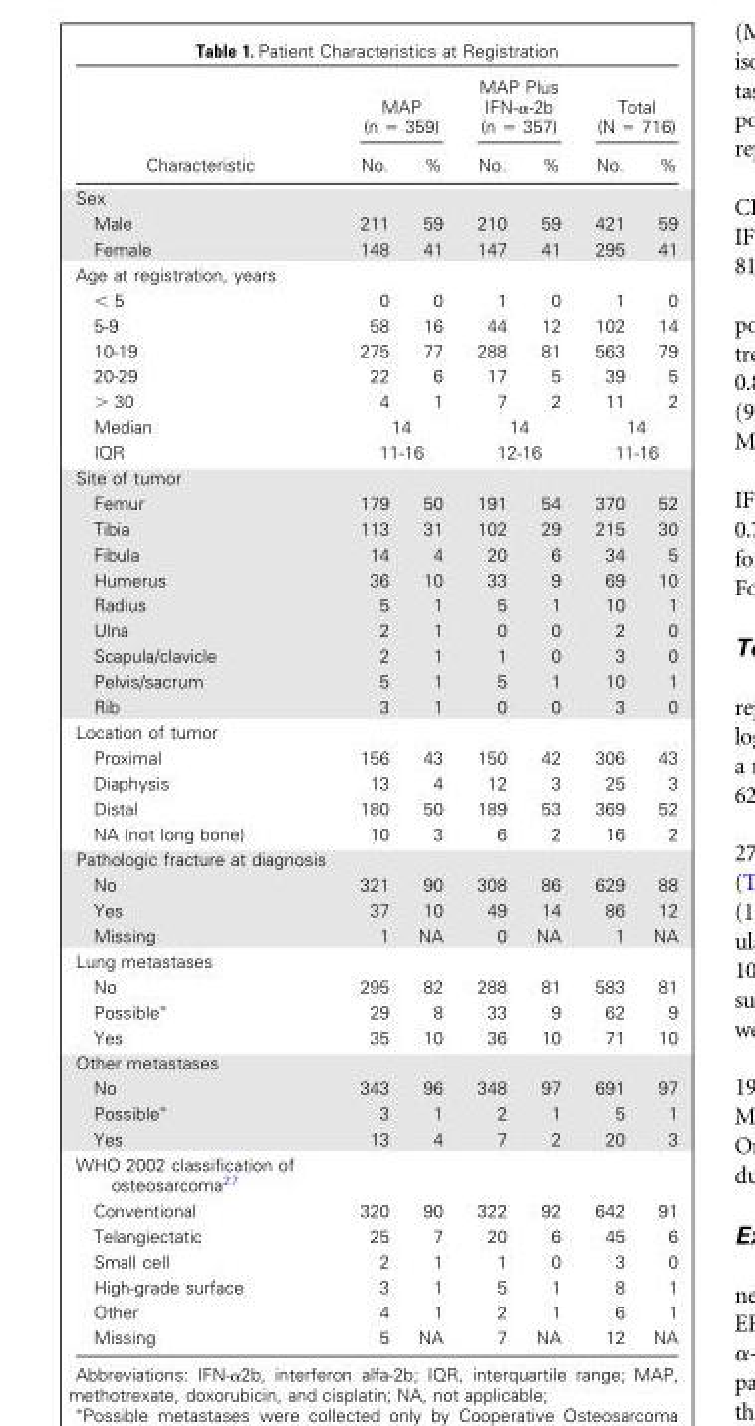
<table><thead><tr><td rowspan="2">Characteristic</td><td colspan="2">MAP (n = 359)</td><td colspan="2">MAP Plus IFN-α-2b (n = 357)</td><td colspan="2">Total (N = 716)</td></tr><tr><td>No.</td><td>%</td><td>No.</td><td>%</td><td>No.</td><td>%</td></tr></thead><tbody><tr><td colspan="7">Sex</td></tr><tr><td>Male</td><td>211</td><td>59</td><td>210</td><td>59</td><td>421</td><td>59</td></tr><tr><td>Female</td><td>148</td><td>41</td><td>147</td><td>41</td><td>295</td><td>41</td></tr><tr><td colspan="7">Age at registration, years</td></tr><tr><td>&lt; 5</td><td>0</td><td>0</td><td>1</td><td>0</td><td>1</td><td>0</td></tr><tr><td>5-9</td><td>58</td><td>16</td><td>44</td><td>12</td><td>102</td><td>14</td></tr><tr><td>10-19</td><td>275</td><td>77</td><td>288</td><td>81</td><td>563</td><td>79</td></tr><tr><td>20-29</td><td>22</td><td>6</td><td>17</td><td>5</td><td>39</td><td>5</td></tr><tr><td>&gt; 30</td><td>4</td><td>1</td><td>7</td><td>2</td><td>11</td><td>2</td></tr><tr><td>Median</td><td colspan="2">14</td><td colspan="2">14</td><td colspan="2">14</td></tr><tr><td>IQR</td><td colspan="2">11-16</td><td colspan="2">12-16</td><td colspan="2">11-16</td></tr><tr><td colspan="7">Site of tumor</td></tr><tr><td>Femur</td><td>179</td><td>50</td><td>191</td><td>54</td><td>370</td><td>52</td></tr><tr><td>Tibia</td><td>113</td><td>31</td><td>102</td><td>29</td><td>215</td><td>30</td></tr><tr><td>Fibula</td><td>14</td><td>4</td><td>20</td><td>6</td><td>34</td><td>5</td></tr><tr><td>Humerus</td><td>36</td><td>10</td><td>33</td><td>9</td><td>69</td><td>10</td></tr><tr><td>Radius</td><td>5</td><td>1</td><td>5</td><td>1</td><td>10</td><td>1</td></tr><tr><td>Ulna</td><td>2</td><td>1</td><td>0</td><td>0</td><td>2</td><td>0</td></tr><tr><td>Scapula/clavicle</td><td>2</td><td>1</td><td>1</td><td>0</td><td>3</td><td>0</td></tr><tr><td>Pelvis/sacrum</td><td>5</td><td>1</td><td>5</td><td>1</td><td>10</td><td>1</td></tr><tr><td>Rib</td><td>3</td><td>1</td><td>0</td><td>0</td><td>3</td><td>0</td></tr><tr><td colspan="7">Location of tumor</td></tr><tr><td>Proximal</td><td>156</td><td>43</td><td>150</td><td>42</td><td>306</td><td>43</td></tr><tr><td>Diaphysis</td><td>13</td><td>4</td><td>12</td><td>3</td><td>25</td><td>3</td></tr><tr><td>Distal</td><td>180</td><td>50</td><td>189</td><td>53</td><td>369</td><td>52</td></tr><tr><td>NA (not long bone)</td><td>10</td><td>3</td><td>6</td><td>2</td><td>16</td><td>2</td></tr><tr><td colspan="7">Pathologic fracture at diagnosis</td></tr><tr><td>No</td><td>321</td><td>90</td><td>308</td><td>86</td><td>629</td><td>88</td></tr><tr><td>Yes</td><td>37</td><td>10</td><td>49</td><td>14</td><td>86</td><td>12</td></tr><tr><td>Missing</td><td>1</td><td>NA</td><td>0</td><td>NA</td><td>1</td><td>NA</td></tr><tr><td colspan="7">Lung metastases</td></tr><tr><td>No</td><td>295</td><td>82</td><td>288</td><td>81</td><td>583</td><td>81</td></tr><tr><td>Possible*</td><td>29</td><td>8</td><td>33</td><td>9</td><td>62</td><td>9</td></tr><tr><td>Yes</td><td>35</td><td>10</td><td>36</td><td>10</td><td>71</td><td>10</td></tr><tr><td colspan="7">Other metastases</td></tr><tr><td>No</td><td>343</td><td>96</td><td>348</td><td>97</td><td>691</td><td>97</td></tr><tr><td>Possible*</td><td>3</td><td>1</td><td>2</td><td>1</td><td>5</td><td>1</td></tr><tr><td>Yes</td><td>13</td><td>4</td><td>7</td><td>2</td><td>20</td><td>3</td></tr><tr><td colspan="7">WHO 2002 classification of osteosarcoma<sup>27</sup></td></tr><tr><td>Conventional</td><td>320</td><td>90</td><td>322</td><td>92</td><td>642</td><td>91</td></tr><tr><td>Telangiectatic</td><td>25</td><td>7</td><td>20</td><td>6</td><td>45</td><td>6</td></tr><tr><td>Small cell</td><td>2</td><td>1</td><td>1</td><td>0</td><td>3</td><td>0</td></tr><tr><td>High-grade surface</td><td>3</td><td>1</td><td>5</td><td>1</td><td>8</td><td>1</td></tr><tr><td>Other</td><td>4</td><td>1</td><td>2</td><td>1</td><td>6</td><td>1</td></tr><tr><td>Missing</td><td>5</td><td>NA</td><td>7</td><td>NA</td><td>12</td><td>NA</td></tr></tbody></table>